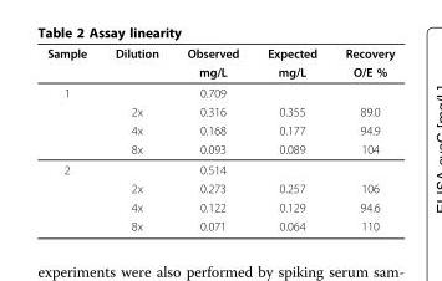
<table><thead><tr><td rowspan="2">Sample</td><td rowspan="2">Dilution</td><td rowspan="2">Observed mg/L</td><td rowspan="2">Expected mg/L</td><td rowspan="2">Recovery O/E %</td></tr><tr></tr></thead><tbody><tr><td rowspan="4">1</td><td></td><td>0.709</td><td></td><td></td></tr><tr><td>2x</td><td>0.316</td><td>0.355</td><td>89.0</td></tr><tr><td>4x</td><td>0.168</td><td>0.177</td><td>94.9</td></tr><tr><td>8x</td><td>0.093</td><td>0.089</td><td>104</td></tr><tr><td rowspan="4">2</td><td></td><td>0.514</td><td></td><td></td></tr><tr><td>2x</td><td>0.273</td><td>0.257</td><td>106</td></tr><tr><td>4x</td><td>0.122</td><td>0.129</td><td>94.6</td></tr><tr><td>8x</td><td>0.071</td><td>0.064</td><td>110</td></tr></tbody></table>